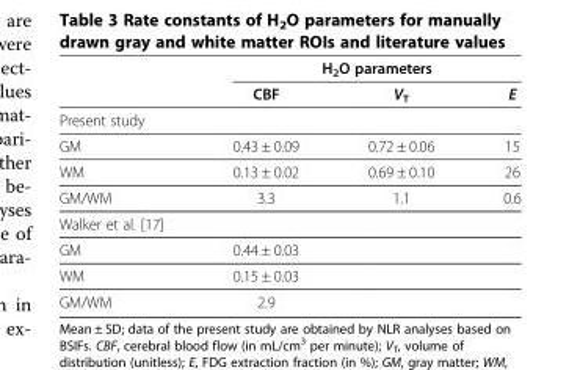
<table><thead><tr><td rowspan="2"></td><td colspan="3">H<sub>2</sub>O parameters</td></tr><tr><td>CBF</td><td>V<sub>T</sub></td><td>E</td></tr></thead><tbody><tr><td colspan="4">Present study</td></tr><tr><td>GM</td><td>0.43 ± 0.09</td><td>0.72 ± 0.06</td><td>15</td></tr><tr><td>WM</td><td>0.13 ± 0.02</td><td>0.69 ± 0.10</td><td>26</td></tr><tr><td>GM/WM</td><td>3.3</td><td>1.1</td><td>0.6</td></tr><tr><td colspan="4">Walker et al. [17]</td></tr><tr><td>GM</td><td>0.44 ± 0.03</td><td></td><td></td></tr><tr><td>WM</td><td>0.15 ± 0.03</td><td></td><td></td></tr><tr><td>GM/WM</td><td>2.9</td><td></td><td></td></tr></tbody></table>